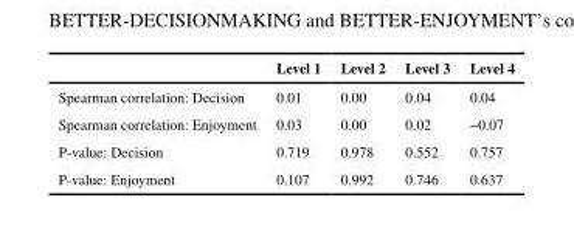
<table><thead><tr><td></td><td>Level 1</td><td>Level 2</td><td>Level 3</td><td>Level 4</td></tr></thead><tbody><tr><td>Spearman correlation: Decision</td><td>0.01</td><td>0.00</td><td>0.04</td><td>0.04</td></tr><tr><td>Spearman correlation: Enjoyment</td><td>0.03</td><td>0.00</td><td>0.02</td><td>−0.07</td></tr><tr><td>P-value: Decision</td><td>0.719</td><td>0.978</td><td>0.552</td><td>0.757</td></tr><tr><td>P-value: Enjoyment</td><td>0.107</td><td>0.992</td><td>0.746</td><td>0.637</td></tr></tbody></table>